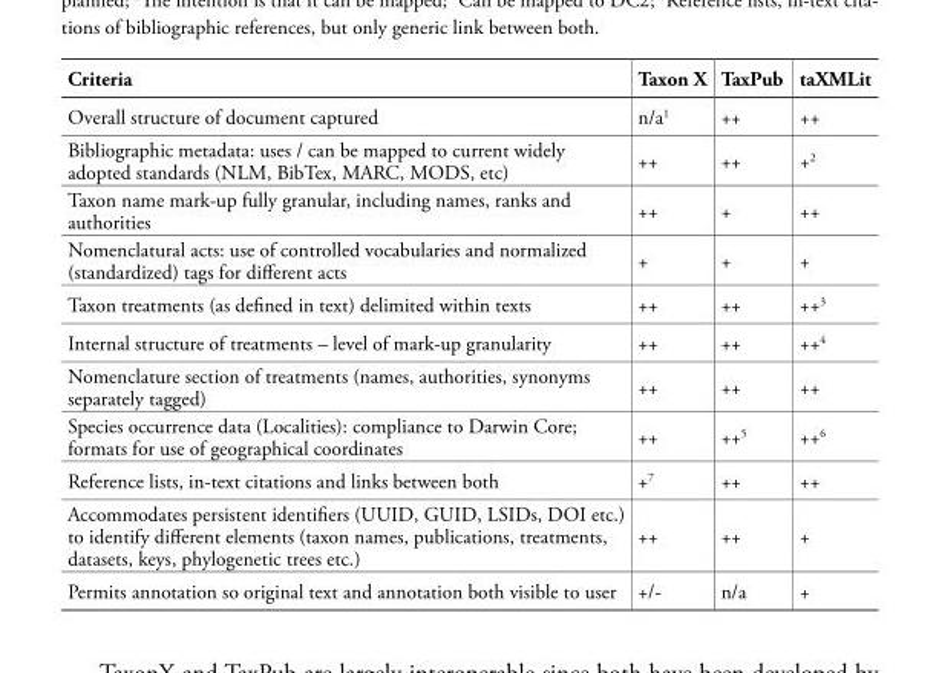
<table><tbody><tr><td>Criteria</td><td>Taxon X</td><td>TaxPub</td><td>taXMLit</td></tr><tr><td>Overall structure of document captured</td><td>n/a<sup>1</sup></td><td>++</td><td>++</td></tr><tr><td>Bibliographic metadata: uses / can be mapped to current widely adopted standards (NLM, BibTex, MARC, MODS, etc)</td><td>++</td><td>++</td><td>+<sup>2</sup></td></tr><tr><td>Taxon name mark-up fully granular, including names, ranks and authorities</td><td>++</td><td>+</td><td>++</td></tr><tr><td>Nomenclatural acts: use of controlled vocabularies and normalized (standardized) tags for different acts</td><td>+</td><td>+</td><td>+</td></tr><tr><td>Taxon treatments (as defined in text) delimited within texts</td><td>++</td><td>++</td><td>++<sup>3</sup></td></tr><tr><td>Internal structure of treatments – level of mark-up granularity</td><td>++</td><td>++</td><td>++<sup>4</sup></td></tr><tr><td>Nomenclature section of treatments (names, authorities, synonyms separately tagged)</td><td>++</td><td>++</td><td>++</td></tr><tr><td>Species occurrence data (Localities): compliance to Darwin Core; formats for use of geographical coordinates</td><td>++</td><td>++<sup>5</sup></td><td>++<sup>6</sup></td></tr><tr><td>Reference lists, in-text citations and links between both</td><td>+<sup>7</sup></td><td>++</td><td>++</td></tr><tr><td>Accommodates persistent identifiers (UUID, GUID, LSIDs, DOI etc.) to identify different elements (taxon names, publications, treatments, datasets, keys, phylogenetic trees etc.)</td><td>++</td><td>++</td><td>+</td></tr><tr><td>Permits annotation so original text and annotation both visible to user</td><td>+/-</td><td>n/a</td><td>+</td></tr></tbody></table>